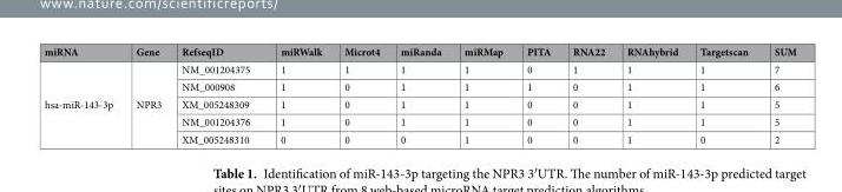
<table><thead><tr><td>miRNA</td><td>Gene</td><td>RefseqID</td><td>miRWalk</td><td>Microt4</td><td>miRanda</td><td>miRMap</td><td>PITA</td><td>RNA22</td><td>RNAhybrid</td><td>Targetscan</td><td>SUM</td></tr></thead><tbody><tr><td rowspan="5">hsa-miR-143-3p</td><td rowspan="5">NPR3</td><td>NM_001204375</td><td>1</td><td>1</td><td>1</td><td>1</td><td>0</td><td>1</td><td>1</td><td>1</td><td>7</td></tr><tr><td>NM_000908</td><td>1</td><td>0</td><td>1</td><td>1</td><td>1</td><td>0</td><td>1</td><td>1</td><td>6</td></tr><tr><td>XM_005248309</td><td>1</td><td>0</td><td>1</td><td>1</td><td>0</td><td>0</td><td>1</td><td>1</td><td>5</td></tr><tr><td>NM_001204376</td><td>1</td><td>0</td><td>1</td><td>1</td><td>0</td><td>0</td><td>1</td><td>1</td><td>5</td></tr><tr><td>XM_005248310</td><td>0</td><td>0</td><td>0</td><td>1</td><td>0</td><td>0</td><td>1</td><td>0</td><td>2</td></tr></tbody></table>